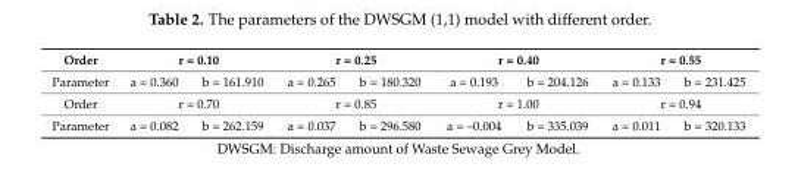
<table><thead><tr><td rowspan="2">Order Parameter</td><td colspan="2">r = 0.10</td><td colspan="2">r = 0.25</td><td colspan="2">r = 0.40</td><td colspan="2">r = 0.55</td></tr><tr><td>a = 0.360</td><td>b = 161.910</td><td>a = 0.265</td><td>b = 180.320</td><td>a = 0.193</td><td>b = 204.126</td><td>a = 0.133</td><td>b = 231.425</td></tr></thead><tbody><tr><td>Order</td><td colspan="2">r = 0.70</td><td colspan="2">r = 0.85</td><td colspan="2">r = 1.00</td><td colspan="2">r = 0.94</td></tr><tr><td>Parameter</td><td>a = 0.082</td><td>b = 262.159</td><td>a = 0.037</td><td>b = 296.580</td><td>a = –0.004</td><td>b = 335.039</td><td>a = 0.011</td><td>b = 320.133</td></tr></tbody></table>